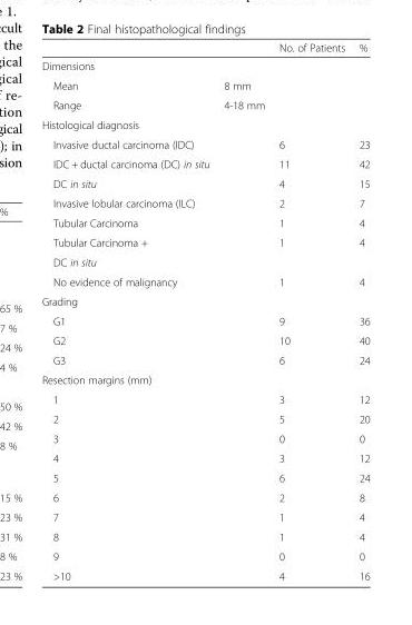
<table><thead><tr><td></td><td></td><td>No. of Patients</td><td>%</td></tr></thead><tbody><tr><td colspan="4">Dimensions</td></tr><tr><td>Mean</td><td>8 mm</td><td></td><td></td></tr><tr><td>Range</td><td>4-18 mm</td><td></td><td></td></tr><tr><td colspan="4">Histological diagnosis</td></tr><tr><td>Invasive ductal carcinoma (IDC)</td><td></td><td>6</td><td>23</td></tr><tr><td>IDC + ductal carcinoma (DC) in situ</td><td></td><td>11</td><td>42</td></tr><tr><td>DC in situ</td><td></td><td>4</td><td>15</td></tr><tr><td>Invasive lobular carcinoma (ILC)</td><td></td><td>2</td><td>7</td></tr><tr><td>Tubular Carcinoma</td><td></td><td>1</td><td>4</td></tr><tr><td>Tubular Carcinoma +</td><td></td><td>1</td><td>4</td></tr><tr><td colspan="4">DC in situ</td></tr><tr><td>No evidence of malignancy</td><td></td><td>1</td><td>4</td></tr><tr><td colspan="4">Grading</td></tr><tr><td>G1</td><td></td><td>9</td><td>36</td></tr><tr><td>G2</td><td></td><td>10</td><td>40</td></tr><tr><td>G3</td><td></td><td>6</td><td>24</td></tr><tr><td colspan="4">Resection margins (mm)</td></tr><tr><td>1</td><td></td><td>3</td><td>12</td></tr><tr><td>2</td><td></td><td>5</td><td>20</td></tr><tr><td>3</td><td></td><td>0</td><td>0</td></tr><tr><td>4</td><td></td><td>3</td><td>12</td></tr><tr><td>5</td><td></td><td>6</td><td>24</td></tr><tr><td>6</td><td></td><td>2</td><td>8</td></tr><tr><td>7</td><td></td><td>1</td><td>4</td></tr><tr><td>8</td><td></td><td>1</td><td>4</td></tr><tr><td>9</td><td></td><td>0</td><td>0</td></tr><tr><td>&gt;10</td><td></td><td>4</td><td>16</td></tr></tbody></table>